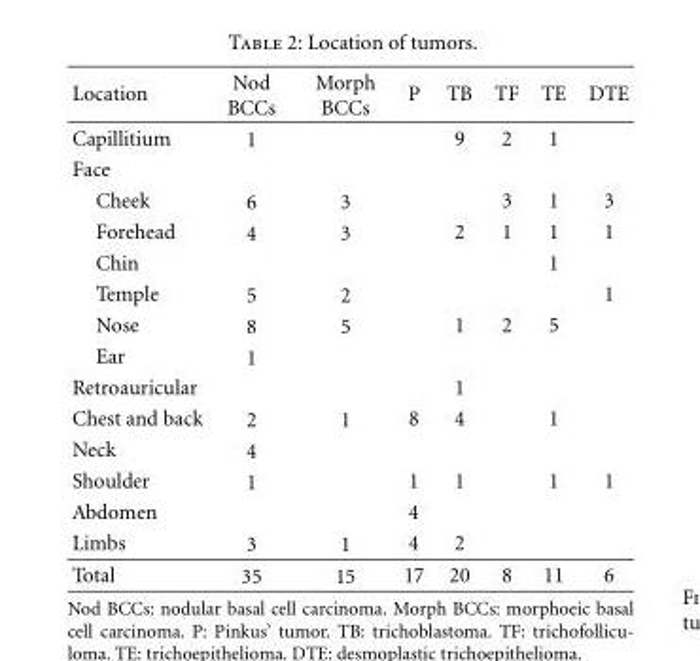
<table><thead><tr><td>Location</td><td>Nod BCCs</td><td>Morph BCCs</td><td>P</td><td>TB</td><td>TF</td><td>TE</td><td>DTE</td></tr></thead><tbody><tr><td>Capillitium</td><td>1</td><td></td><td></td><td>9</td><td>2</td><td>1</td><td></td></tr><tr><td colspan="8">Face</td></tr><tr><td>Cheek</td><td>6</td><td>3</td><td></td><td></td><td>3</td><td>1</td><td>3</td></tr><tr><td>Forehead</td><td>4</td><td>3</td><td></td><td>2</td><td>1</td><td>1</td><td>1</td></tr><tr><td>Chin</td><td></td><td></td><td></td><td></td><td></td><td>1</td><td></td></tr><tr><td>Temple</td><td>5</td><td>2</td><td></td><td></td><td></td><td></td><td>1</td></tr><tr><td>Nose</td><td>8</td><td>5</td><td></td><td>1</td><td>2</td><td>5</td><td></td></tr><tr><td>Ear</td><td>1</td><td></td><td></td><td></td><td></td><td></td><td></td></tr><tr><td>Retroauricular</td><td></td><td></td><td></td><td>1</td><td></td><td></td><td></td></tr><tr><td>Chest and back</td><td>2</td><td>1</td><td>8</td><td>4</td><td></td><td>1</td><td></td></tr><tr><td>Neck</td><td>4</td><td></td><td></td><td></td><td></td><td></td><td></td></tr><tr><td>Shoulder</td><td>1</td><td></td><td>1</td><td>1</td><td></td><td>1</td><td>1</td></tr><tr><td>Abdomen</td><td></td><td></td><td>4</td><td></td><td></td><td></td><td></td></tr><tr><td>Limbs</td><td>3</td><td>1</td><td>4</td><td>2</td><td></td><td></td><td></td></tr><tr><td>Total</td><td>35</td><td>15</td><td>17</td><td>20</td><td>8</td><td>11</td><td>6</td></tr></tbody></table>